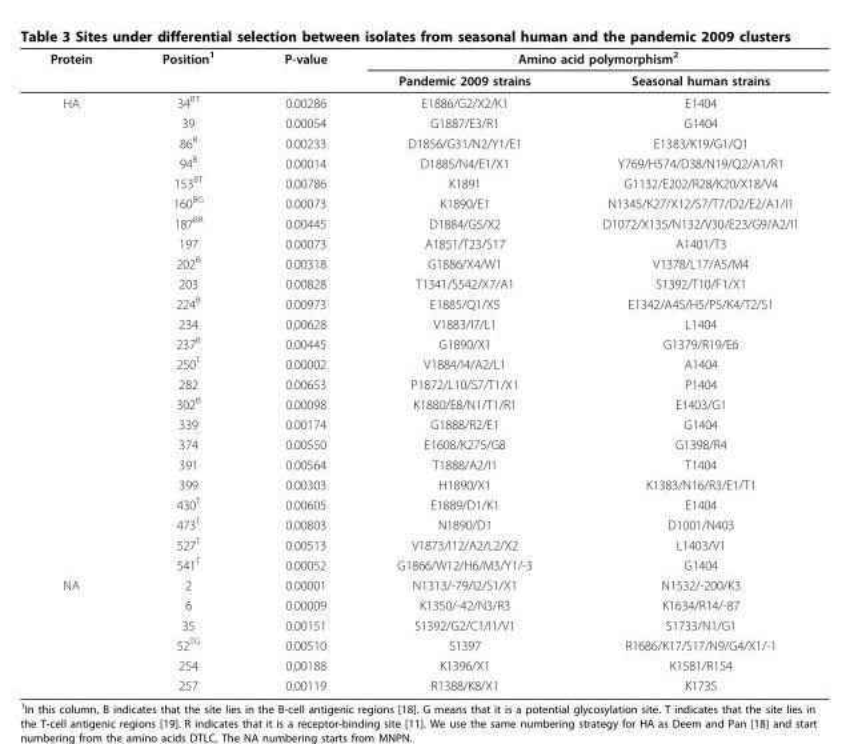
<table><thead><tr><td rowspan="2">Protein</td><td rowspan="2">Position<sup>1</sup></td><td rowspan="2">P-value</td><td colspan="2">Amino acid polymorphism<sup>2</sup></td></tr><tr><td>Pandemic 2009 strains</td><td>Seasonal human strains</td></tr></thead><tbody><tr><td rowspan="24">HA</td><td>34<sup>BT</sup></td><td>0.00286</td><td>E1886/G2/X2/K1</td><td>E1404</td></tr><tr><td>39</td><td>0.00054</td><td>G1887/E3/R1</td><td>G1404</td></tr><tr><td>86<sup>B</sup></td><td>0.00233</td><td>D1856/G31/N2/Y1/E1</td><td>E1383/K19/G1/Q1</td></tr><tr><td>94<sup>B</sup></td><td>0.00014</td><td>D1885/N4/E1/X1</td><td>Y769/H574/D38/N19/Q2/A1/R1</td></tr><tr><td>153<sup>BT</sup></td><td>0.00786</td><td>K1891</td><td>G1132/E202/R28/K20/X18/V4</td></tr><tr><td>160<sup>BG</sup></td><td>0.00073</td><td>K1890/E1</td><td>N1345/K27/X12/S7/T7/D2/E2/A1/I1</td></tr><tr><td>187<sup>BR</sup></td><td>0.00445</td><td>D1884/G5/X2</td><td>D1072/X135/N132/V30/E23/G9/A2/I1</td></tr><tr><td>197</td><td>0.00073</td><td>A1851/T23/S17</td><td>A1401/T3</td></tr><tr><td>202<sup>B</sup></td><td>0.00318</td><td>G1886/X4/W1</td><td>V1378/L17/A5/M4</td></tr><tr><td>203</td><td>0.00828</td><td>T1341/S542/X7/A1</td><td>S1392/T10/F1/X1</td></tr><tr><td>224<sup>B</sup></td><td>0.00973</td><td>E1885/Q1/X5</td><td>E1342/A45/H5/P5/K4/T2/S1</td></tr><tr><td>234</td><td>0.00628</td><td>V1883/I7/L1</td><td>L1404</td></tr><tr><td>237<sup>B</sup></td><td>0.00445</td><td>G1890/X1</td><td>G1379/R19/E6</td></tr><tr><td>250<sup>T</sup></td><td>0.00002</td><td>V1884/I4/A2/L1</td><td>A1404</td></tr><tr><td>282</td><td>0.00653</td><td>P1872/L10/S7/T1/X1</td><td>P1404</td></tr><tr><td>302<sup>B</sup></td><td>0.00098</td><td>K1880/E8/N1/T1/R1</td><td>E1403/G1</td></tr><tr><td>339</td><td>0.00174</td><td>G1888/R2/E1</td><td>G1404</td></tr><tr><td>374</td><td>0.00550</td><td>E1608/K275/G8</td><td>G1398/R4</td></tr><tr><td>391</td><td>0.00564</td><td>T1888/A2/I1</td><td>T1404</td></tr><tr><td>399</td><td>0.00303</td><td>H1890/X1</td><td>K1383/N16/R3/E1/T1</td></tr><tr><td>430<sup>T</sup></td><td>0.00605</td><td>E1889/D1/K1</td><td>E1404</td></tr><tr><td>473<sup>T</sup></td><td>0.00803</td><td>N1890/D1</td><td>D1001/N403</td></tr><tr><td>527<sup>T</sup></td><td>0.00513</td><td>V1873/I12/A2/L2/X2</td><td>L1403/V1</td></tr><tr><td>541<sup>T</sup></td><td>0.00052</td><td>G1866/W12/H6/M3/Y1/-3</td><td>G1404</td></tr><tr><td rowspan="6">NA</td><td>2</td><td>0.00001</td><td>N1313/-79/I2/S1/X1</td><td>N1532/-200/K3</td></tr><tr><td>6</td><td>0.00009</td><td>K1350/-42/N3/R3</td><td>K1634/R14/-87</td></tr><tr><td>35</td><td>0.00151</td><td>S1392/G2/C1/I1/V1</td><td>S1733/N1/G1</td></tr><tr><td>52<sup>TG</sup></td><td>0.00510</td><td>S1397</td><td>R1686/K17/S17/N9/G4/X1/-1</td></tr><tr><td>254</td><td>0.00188</td><td>K1396/X1</td><td>K1581/R154</td></tr><tr><td>257</td><td>0.00119</td><td>R1388/K8/X1</td><td>K1735</td></tr></tbody></table>